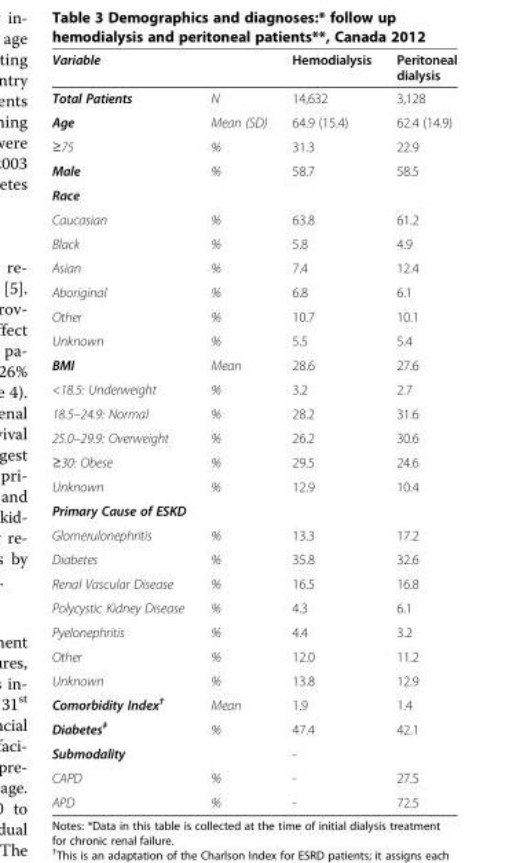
<table><thead><tr><td>Variable</td><td></td><td>Hemodialysis</td><td>Peritoneal dialysis</td></tr></thead><tbody><tr><td>Total Patients</td><td>N</td><td>14,632</td><td>3,128</td></tr><tr><td>Age</td><td>Mean (SD)</td><td>64.9 (15.4)</td><td>62.4 (14.9)</td></tr><tr><td>≥75</td><td>%</td><td>31.3</td><td>22.9</td></tr><tr><td>Male</td><td>%</td><td>58.7</td><td>58.5</td></tr><tr><td colspan="4">Race</td></tr><tr><td>Caucasian</td><td>%</td><td>63.8</td><td>61.2</td></tr><tr><td>Black</td><td>%</td><td>5.8</td><td>4.9</td></tr><tr><td>Asian</td><td>%</td><td>7.4</td><td>12.4</td></tr><tr><td>Aboriginal</td><td>%</td><td>6.8</td><td>6.1</td></tr><tr><td>Other</td><td>%</td><td>10.7</td><td>10.1</td></tr><tr><td>Unknown</td><td>%</td><td>5.5</td><td>5.4</td></tr><tr><td>BMI</td><td>Mean</td><td>28.6</td><td>27.6</td></tr><tr><td>&lt;18.5: Underweight</td><td>%</td><td>3.2</td><td>2.7</td></tr><tr><td>18.5–24.9: Normal</td><td>%</td><td>28.2</td><td>31.6</td></tr><tr><td>25.0–29.9: Overweight</td><td>%</td><td>26.2</td><td>30.6</td></tr><tr><td>≥30: Obese</td><td>%</td><td>29.5</td><td>24.6</td></tr><tr><td>Unknown</td><td>%</td><td>12.9</td><td>10.4</td></tr><tr><td colspan="4">Primary Cause of ESKD</td></tr><tr><td>Glomerulonephritis</td><td>%</td><td>13.3</td><td>17.2</td></tr><tr><td>Diabetes</td><td>%</td><td>35.8</td><td>32.6</td></tr><tr><td>Renal Vascular Disease</td><td>%</td><td>16.5</td><td>16.8</td></tr><tr><td>Polycystic Kidney Disease</td><td>%</td><td>4.3</td><td>6.1</td></tr><tr><td>Pyelonephritis</td><td>%</td><td>4.4</td><td>3.2</td></tr><tr><td>Other</td><td>%</td><td>12.0</td><td>11.2</td></tr><tr><td>Unknown</td><td>%</td><td>13.8</td><td>12.9</td></tr><tr><td>Comorbidity Index<sup>†</sup></td><td>Mean</td><td>1.9</td><td>1.4</td></tr><tr><td>Diabetes<sup>‡</sup></td><td>%</td><td>47.4</td><td>42.1</td></tr><tr><td>Submodality</td><td></td><td>-</td><td></td></tr><tr><td>CAPD</td><td>%</td><td>-</td><td>27.5</td></tr><tr><td>APD</td><td>%</td><td>-</td><td>72.5</td></tr></tbody></table>